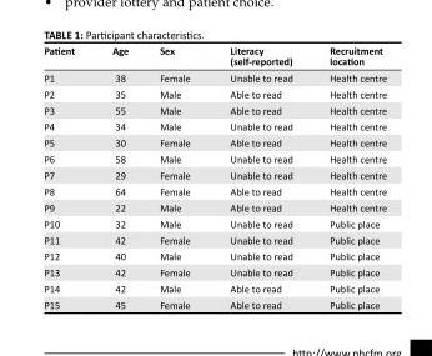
<table><thead><tr><td>Patient</td><td>Age</td><td>Sex</td><td>Literacy (self-reported)</td><td>Recruitment location</td></tr></thead><tbody><tr><td>P1</td><td>38</td><td>Female</td><td>Unable to read</td><td>Health centre</td></tr><tr><td>P2</td><td>35</td><td>Male</td><td>Able to read</td><td>Health centre</td></tr><tr><td>P3</td><td>55</td><td>Male</td><td>Able to read</td><td>Health centre</td></tr><tr><td>P4</td><td>34</td><td>Male</td><td>Unable to read</td><td>Health centre</td></tr><tr><td>P5</td><td>30</td><td>Female</td><td>Able to read</td><td>Health centre</td></tr><tr><td>P6</td><td>58</td><td>Male</td><td>Unable to read</td><td>Health centre</td></tr><tr><td>P7</td><td>29</td><td>Female</td><td>Unable to read</td><td>Health centre</td></tr><tr><td>P8</td><td>64</td><td>Female</td><td>Able to read</td><td>Health centre</td></tr><tr><td>P9</td><td>22</td><td>Male</td><td>Able to read</td><td>Health centre</td></tr><tr><td>P10</td><td>32</td><td>Male</td><td>Unable to read</td><td>Public place</td></tr><tr><td>P11</td><td>42</td><td>Female</td><td>Unable to read</td><td>Public place</td></tr><tr><td>P12</td><td>40</td><td>Male</td><td>Unable to read</td><td>Public place</td></tr><tr><td>P13</td><td>42</td><td>Female</td><td>Unable to read</td><td>Public place</td></tr><tr><td>P14</td><td>42</td><td>Male</td><td>Able to read</td><td>Public place</td></tr><tr><td>P15</td><td>45</td><td>Female</td><td>Able to read</td><td>Public place</td></tr></tbody></table>